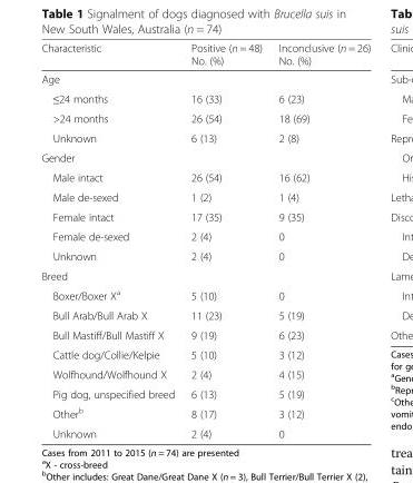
<table><thead><tr><td>Characteristic</td><td>Positive (n = 48) No. (%)</td><td>Inconclusive (n = 26) No. (%)</td></tr></thead><tbody><tr><td colspan="3">Age</td></tr><tr><td>≤24 months</td><td>16 (33)</td><td>6 (23)</td></tr><tr><td>&gt;24 months</td><td>26 (54)</td><td>18 (69)</td></tr><tr><td>Unknown</td><td>6 (13)</td><td>2 (8)</td></tr><tr><td colspan="3">Gender</td></tr><tr><td>Male intact</td><td>26 (54)</td><td>16 (62)</td></tr><tr><td>Male de-sexed</td><td>1 (2)</td><td>1 (4)</td></tr><tr><td>Female intact</td><td>17 (35)</td><td>9 (35)</td></tr><tr><td>Female de-sexed</td><td>2 (4)</td><td>0</td></tr><tr><td>Unknown</td><td>2 (4)</td><td>0</td></tr><tr><td colspan="3">Breed</td></tr><tr><td>Boxer/Boxer X<sup>a</sup></td><td>5 (10)</td><td>0</td></tr><tr><td>Bull Arab/Bull Arab X</td><td>11 (23)</td><td>5 (19)</td></tr><tr><td>Bull Mastiff/Bull Mastiff X</td><td>9 (19)</td><td>6 (23)</td></tr><tr><td>Cattle dog/Collie/Kelpie</td><td>5 (10)</td><td>3 (12)</td></tr><tr><td>Wolfhound/Wolfhound X</td><td>2 (4)</td><td>4 (15)</td></tr><tr><td>Pig dog, unspecified breed</td><td>6 (13)</td><td>5 (19)</td></tr><tr><td>Other<sup>b</sup></td><td>8 (17)</td><td>3 (12)</td></tr><tr><td>Unknown</td><td>2 (4)</td><td>0</td></tr></tbody></table>